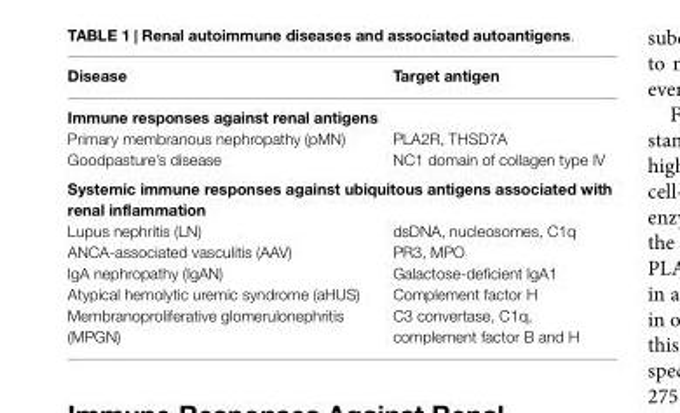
<table><thead><tr><td>Disease</td><td>Target antigen</td></tr></thead><tbody><tr><td colspan="2">Immune responses against renal antigens</td></tr><tr><td>Primary membranous nephropathy (pMN)</td><td>PLA2R, THSD7A</td></tr><tr><td>Goodpasture’s disease</td><td>NC1 domain of collagen type IV</td></tr><tr><td colspan="2">Systemic immune responses against ubiquitous antigens associated with renal inflammation</td></tr><tr><td>Lupus nephritis (LN)</td><td>dsDNA, nucleosomes, C1q</td></tr><tr><td>ANCA-associated vasculitis (AAV)</td><td>PR3, MPO</td></tr><tr><td>IgA nephropathy (IgAN)</td><td>Galactose-deficient IgA1</td></tr><tr><td>Atypical hemolytic uremic syndrome (aHUS)</td><td>Complement factor H</td></tr><tr><td>Membranoproliferative glomerulonephritis (MPGN)</td><td>C3 convertase, C1q, complement factor B and H</td></tr></tbody></table>